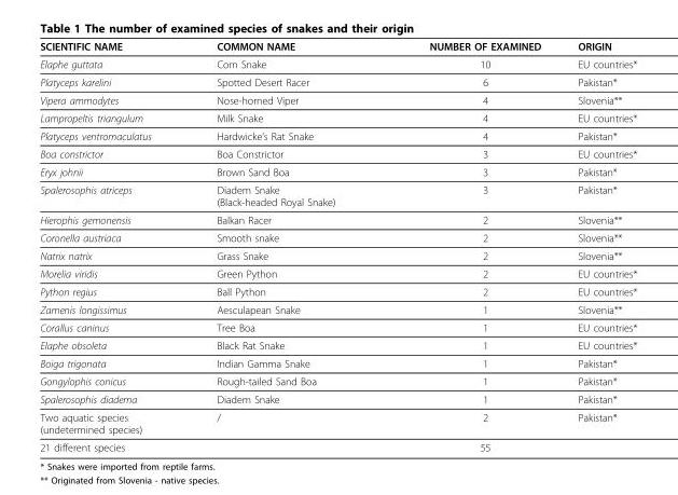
<table><thead><tr><td>SCIENTIFIC NAME</td><td>COMMON NAME</td><td>NUMBER OF EXAMINED</td><td>ORIGIN</td></tr></thead><tbody><tr><td>Elaphe guttata</td><td>Corn Snake</td><td>10</td><td>EU countries*</td></tr><tr><td>Platyceps karelini</td><td>Spotted Desert Racer</td><td>6</td><td>Pakistan*</td></tr><tr><td>Vipera ammodytes</td><td>Nose-horned Viper</td><td>4</td><td>Slovenia**</td></tr><tr><td>Lampropeltis triangulum</td><td>Milk Snake</td><td>4</td><td>EU countries*</td></tr><tr><td>Platyceps ventromaculatus</td><td>Hardwicke’s Rat Snake</td><td>4</td><td>Pakistan*</td></tr><tr><td>Boa constrictor</td><td>Boa Constrictor</td><td>3</td><td>EU countries*</td></tr><tr><td>Eryx johnii</td><td>Brown Sand Boa</td><td>3</td><td>Pakistan*</td></tr><tr><td>Spalerosophis atriceps</td><td>Diadem Snake (Black-headed Royal Snake)</td><td>3</td><td>Pakistan*</td></tr><tr><td>Hierophis gemonensis</td><td>Balkan Racer</td><td>2</td><td>Slovenia**</td></tr><tr><td>Coronella austriaca</td><td>Smooth snake</td><td>2</td><td>Slovenia**</td></tr><tr><td>Natrix natrix</td><td>Grass Snake</td><td>2</td><td>Slovenia**</td></tr><tr><td>Morelia viridis</td><td>Green Python</td><td>2</td><td>EU countries*</td></tr><tr><td>Python regius</td><td>Ball Python</td><td>2</td><td>EU countries*</td></tr><tr><td>Zamenis longissimus</td><td>Aesculapean Snake</td><td>1</td><td>Slovenia**</td></tr><tr><td>Corallus caninus</td><td>Tree Boa</td><td>1</td><td>EU countries*</td></tr><tr><td>Elaphe obsoleta</td><td>Black Rat Snake</td><td>1</td><td>EU countries*</td></tr><tr><td>Boiga trigonata</td><td>Indian Gamma Snake</td><td>1</td><td>Pakistan*</td></tr><tr><td>Gongylophis conicus</td><td>Rough-tailed Sand Boa</td><td>1</td><td>Pakistan*</td></tr><tr><td>Spalerosophis diadema</td><td>Diadem Snake</td><td>1</td><td>Pakistan*</td></tr><tr><td>Two aquatic species (undetermined species)</td><td>/</td><td>2</td><td>Pakistan*</td></tr><tr><td>21 different species</td><td></td><td>55</td><td></td></tr></tbody></table>